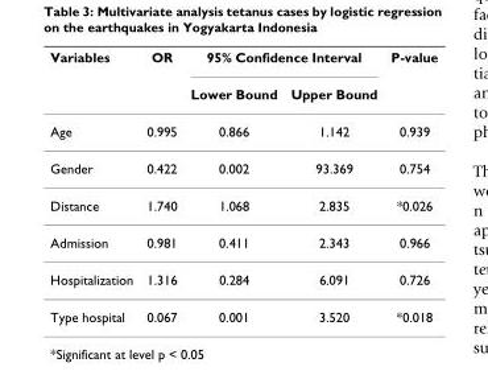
<table><thead><tr><td rowspan="2">Variables</td><td rowspan="2">OR</td><td colspan="2">95% Confidence Interval</td><td rowspan="2">P-value</td></tr><tr><td>Lower Bound</td><td>Upper Bound</td></tr></thead><tbody><tr><td>Age</td><td>0.995</td><td>0.866</td><td>1.142</td><td>0.939</td></tr><tr><td>Gender</td><td>0.422</td><td>0.002</td><td>93.369</td><td>0.754</td></tr><tr><td>Distance</td><td>1.740</td><td>1.068</td><td>2.835</td><td>*0.026</td></tr><tr><td>Admission</td><td>0.981</td><td>0.411</td><td>2.343</td><td>0.966</td></tr><tr><td>Hospitalization</td><td>1.316</td><td>0.284</td><td>6.091</td><td>0.726</td></tr><tr><td>Type hospital</td><td>0.067</td><td>0.001</td><td>3.520</td><td>*0.018</td></tr></tbody></table>